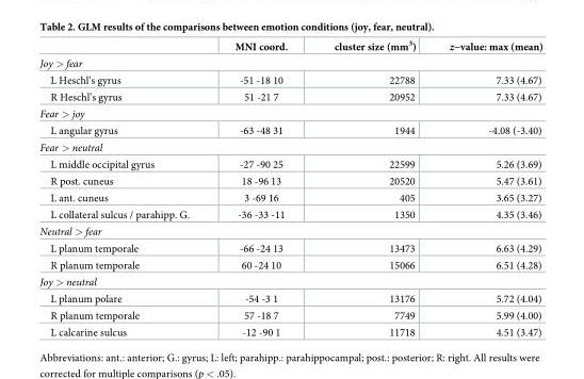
<table><thead><tr><td></td><td>MNI coord.</td><td>cluster size (mm<sup>3</sup>)</td><td>z−value: max (mean)</td></tr></thead><tbody><tr><td colspan="4">Joy &gt; fear</td></tr><tr><td>L Heschl’s gyrus</td><td>-51 -18 10</td><td>22788</td><td>7.33 (4.67)</td></tr><tr><td>R Heschl’s gyrus</td><td>51 -21 7</td><td>20952</td><td>7.33 (4.67)</td></tr><tr><td colspan="4">Fear &gt; joy</td></tr><tr><td>L angular gyrus</td><td>-63 -48 31</td><td>1944</td><td>-4.08 (-3.40)</td></tr><tr><td colspan="4">Fear &gt; neutral</td></tr><tr><td>L middle occipital gyrus</td><td>-27 -90 25</td><td>22599</td><td>5.26 (3.69)</td></tr><tr><td>R post. cuneus</td><td>18 -96 13</td><td>20520</td><td>5.47 (3.61)</td></tr><tr><td>L ant. cuneus</td><td>3 -69 16</td><td>405</td><td>3.65 (3.27)</td></tr><tr><td>L collateral sulcus / parahipp. G.</td><td>-36 -33 -11</td><td>1350</td><td>4.35 (3.46)</td></tr><tr><td colspan="4">Neutral &gt; fear</td></tr><tr><td>L planum temporale</td><td>-66 -24 13</td><td>13473</td><td>6.63 (4.29)</td></tr><tr><td>R planum temporale</td><td>60 -24 10</td><td>15066</td><td>6.51 (4.28)</td></tr><tr><td colspan="4">Joy &gt; neutral</td></tr><tr><td>L planum polare</td><td>-54 -3 1</td><td>13176</td><td>5.72 (4.04)</td></tr><tr><td>R planum temporale</td><td>57 -18 7</td><td>7749</td><td>5.99 (4.00)</td></tr><tr><td>L calcarine sulcus</td><td>-12 -90 1</td><td>11718</td><td>4.51 (3.47)</td></tr></tbody></table>